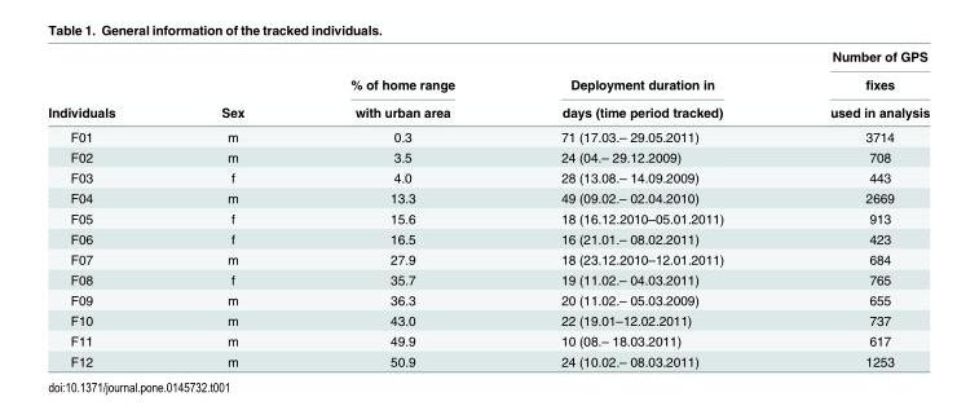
<table><thead><tr><td rowspan="3">Individuals</td><td rowspan="3">Sex</td><td rowspan="3">% of home range with urban area</td><td rowspan="3">Deployment duration in days (time period tracked)</td><td rowspan="3">Number of GPS fixes used in analysis</td></tr><tr></tr><tr></tr></thead><tbody><tr><td>F01</td><td>m</td><td>0.3</td><td>71 (17.03.– 29.05.2011)</td><td>3714</td></tr><tr><td>F02</td><td>m</td><td>3.5</td><td>24 (04.– 29.12.2009)</td><td>708</td></tr><tr><td>F03</td><td>f</td><td>4.0</td><td>28 (13.08.– 14.09.2009)</td><td>443</td></tr><tr><td>F04</td><td>m</td><td>13.3</td><td>49 (09.02.– 02.04.2010)</td><td>2669</td></tr><tr><td>F05</td><td>f</td><td>15.6</td><td>18 (16.12.2010–05.01.2011)</td><td>913</td></tr><tr><td>F06</td><td>f</td><td>16.5</td><td>16 (21.01.– 08.02.2011)</td><td>423</td></tr><tr><td>F07</td><td>m</td><td>27.9</td><td>18 (23.12.2010–12.01.2011)</td><td>684</td></tr><tr><td>F08</td><td>f</td><td>35.7</td><td>19 (11.02.– 04.03.2011)</td><td>765</td></tr><tr><td>F09</td><td>m</td><td>36.3</td><td>20 (11.02.– 05.03.2009)</td><td>655</td></tr><tr><td>F10</td><td>m</td><td>43.0</td><td>22 (19.01–12.02.2011)</td><td>737</td></tr><tr><td>F11</td><td>m</td><td>49.9</td><td>10 (08.– 18.03.2011)</td><td>617</td></tr><tr><td>F12</td><td>m</td><td>50.9</td><td>24 (10.02.– 08.03.2011)</td><td>1253</td></tr></tbody></table>